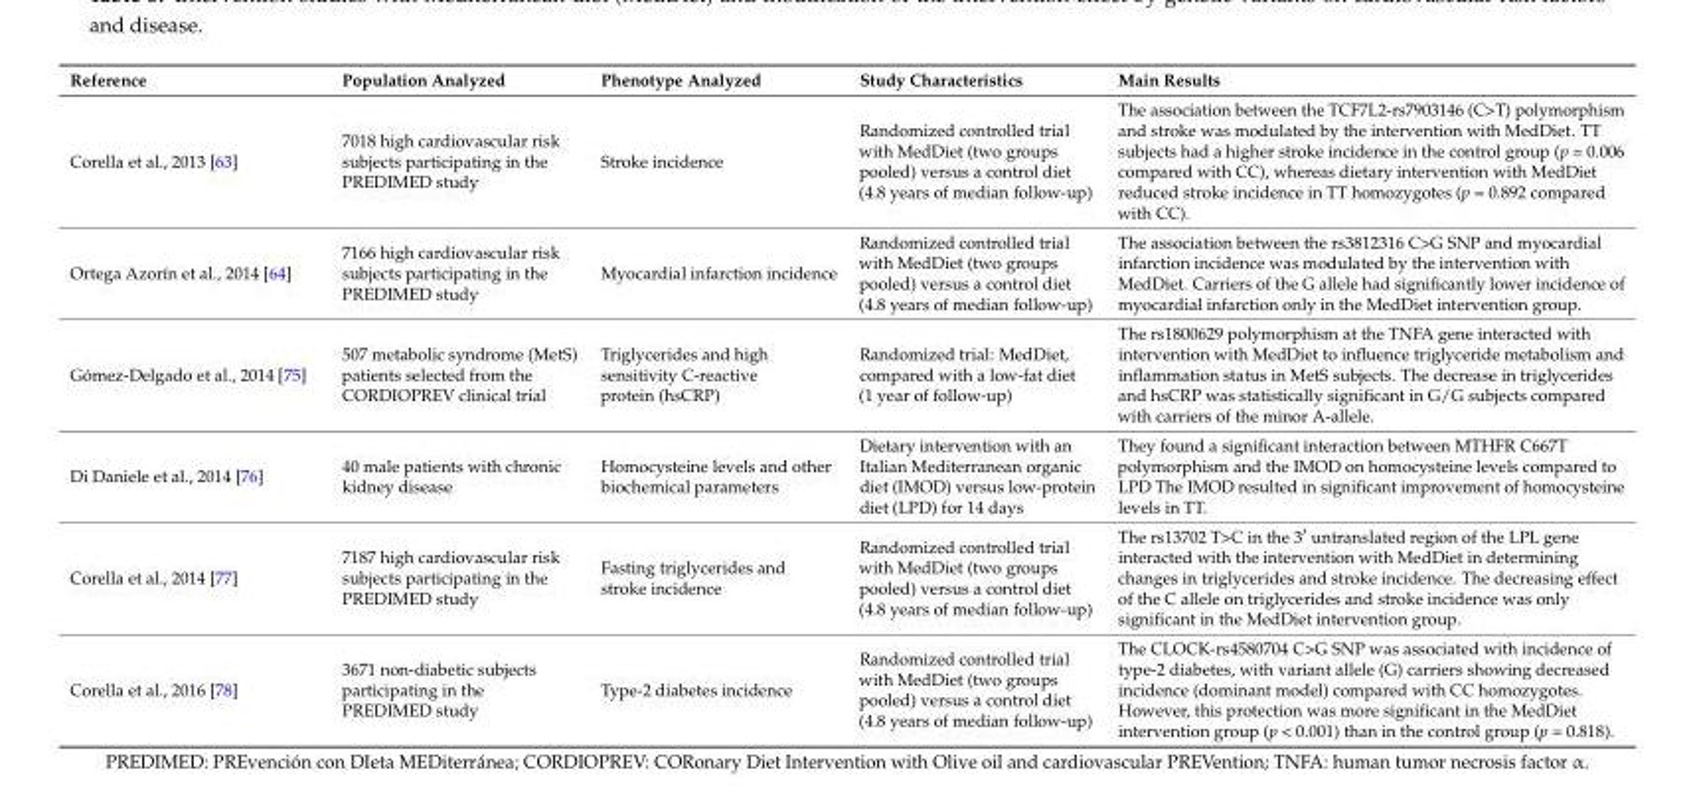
<table><thead><tr><td>Reference</td><td>Population Analyzed</td><td>Phenotype Analyzed</td><td>Study Characteristics</td><td>Main Results</td></tr></thead><tbody><tr><td>Corella et al., 2013 [63]</td><td>7018 high cardiovascular risk subjects participating in the PREDIMED study</td><td>Stroke incidence</td><td>Randomized controlled trial with MedDiet (two groups pooled) versus a control diet (4.8 years of median follow-up)</td><td>The association between the TCF7L2-rs7903146 (C&gt;T) polymorphism and stroke was modulated by the intervention with MedDiet. TT subjects had a higher stroke incidence in the control group (p = 0.006 compared with CC), whereas dietary intervention with MedDiet reduced stroke incidence in TT homozygotes (p = 0.892 compared with CC).</td></tr><tr><td>Ortega Azorín et al., 2014 [64]</td><td>7166 high cardiovascular risk subjects participating in the PREDIMED study</td><td>Myocardial infarction incidence</td><td>Randomized controlled trial with MedDiet (two groups pooled) versus a control diet (4.8 years of median follow-up)</td><td>The association between the rs3812316 C&gt;G SNP and myocardial infarction incidence was modulated by the intervention with MedDiet. Carriers of the G allele had significantly lower incidence of myocardial infarction only in the MedDiet intervention group.</td></tr><tr><td>Gómez-Delgado et al., 2014 [75]</td><td>507 metabolic syndrome (MetS) patients selected from the CORDIOPREV clinical trial</td><td>Triglycerides and high sensitivity C-reactive protein (hsCRP)</td><td>Randomized trial: MedDiet, compared with a low-fat diet (1 year of follow-up)</td><td>The rs1800629 polymorphism at the TNFA gene interacted with intervention with MedDiet to influence triglyceride metabolism and inflammation status in MetS subjects. The decrease in triglycerides and hsCRP was statistically significant in G/G subjects compared with carriers of the minor A-allele.</td></tr><tr><td>Di Daniele et al., 2014 [76]</td><td>40 male patients with chronic kidney disease</td><td>Homocysteine levels and other biochemical parameters</td><td>Dietary intervention with an Italian Mediterranean organic diet (IMOD) versus low-protein diet (LPD) for 14 days</td><td>They found a significant interaction between MTHFR C667T polymorphism and the IMOD on homocysteine levels compared to LPD The IMOD resulted in significant improvement of homocysteine levels in TT.</td></tr><tr><td>Corella et al., 2014 [77]</td><td>7187 high cardiovascular risk subjects participating in the PREDIMED study</td><td>Fasting triglycerides and stroke incidence</td><td>Randomized controlled trial with MedDiet (two groups pooled) versus a control diet (4.8 years of median follow-up)</td><td>The rs13702 T&gt;C in the 3′ untranslated region of the LPL gene interacted with the intervention with MedDiet in determining changes in triglycerides and stroke incidence. The decreasing effect of the C allele on triglycerides and stroke incidence was only significant in the MedDiet intervention group.</td></tr><tr><td>Corella et al., 2016 [78]</td><td>3671 non-diabetic subjects participating in the PREDIMED study</td><td>Type-2 diabetes incidence</td><td>Randomized controlled trial with MedDiet (two groups pooled) versus a control diet (4.8 years of median follow-up)</td><td>The CLOCK-rs4580704 C&gt;G SNP was associated with incidence of type-2 diabetes, with variant allele (G) carriers showing decreased incidence (dominant model) compared with CC homozygotes. However, this protection was more significant in the MedDiet intervention group (p &lt; 0.001) than in the control group (p = 0.818).</td></tr></tbody></table>